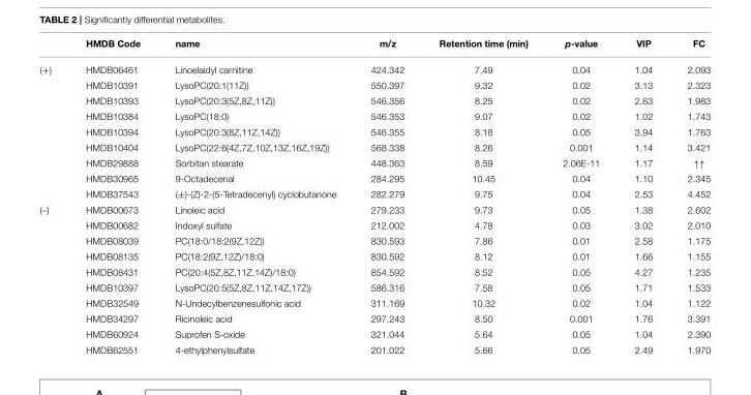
<table><thead><tr><td></td><td>HMDB Code</td><td>name</td><td>m/z</td><td>Retention time (min)</td><td>p-value</td><td>VIP</td><td>FC</td></tr></thead><tbody><tr><td rowspan="9">(+)</td><td>HMDB06461</td><td>Linoelaidyl carnitine</td><td>424.342</td><td>7.49</td><td>0.04</td><td>1.04</td><td>2.093</td></tr><tr><td>HMDB10391</td><td>LysoPC(20:1(11Z))</td><td>550.397</td><td>9.32</td><td>0.02</td><td>3.13</td><td>2.323</td></tr><tr><td>HMDB10393</td><td>LysoPC(20:3(5Z,8Z,11Z))</td><td>546.356</td><td>8.25</td><td>0.02</td><td>2.63</td><td>1.983</td></tr><tr><td>HMDB10384</td><td>LysoPC(18:0)</td><td>546.353</td><td>9.07</td><td>0.02</td><td>1.02</td><td>1.743</td></tr><tr><td>HMDB10394</td><td>LysoPC(20:3(8Z,11Z,14Z))</td><td>546.355</td><td>8.18</td><td>0.05</td><td>3.94</td><td>1.763</td></tr><tr><td>HMDB10404</td><td>LysoPC(22:6(4Z,7Z,10Z,13Z,16Z,19Z))</td><td>568.338</td><td>8.26</td><td>0.001</td><td>1.14</td><td>3.421</td></tr><tr><td>HMDB29888</td><td>Sorbitan stearate</td><td>448.363</td><td>8.59</td><td>2.06E-11</td><td>1.17</td><td>↑↑</td></tr><tr><td>HMDB30965</td><td>9-Octadecenal</td><td>284.295</td><td>10.45</td><td>0.04</td><td>1.10</td><td>2.345</td></tr><tr><td>HMDB37543</td><td>(±)-(Z)-2-(5-Tetradecenyl) cyclobutanone</td><td>282.279</td><td>9.75</td><td>0.04</td><td>2.53</td><td>4.452</td></tr><tr><td rowspan="10">(–)</td><td>HMDB00673</td><td>Linoleic acid</td><td>279.233</td><td>9.73</td><td>0.05</td><td>1.38</td><td>2.602</td></tr><tr><td>HMDB00682</td><td>Indoxyl sulfate</td><td>212.002</td><td>4.78</td><td>0.03</td><td>3.02</td><td>2.010</td></tr><tr><td>HMDB08039</td><td>PC(18:0/18:2(9Z,12Z))</td><td>830.593</td><td>7.86</td><td>0.01</td><td>2.58</td><td>1.175</td></tr><tr><td>HMDB08135</td><td>PC(18:2(9Z,12Z)/18:0)</td><td>830.592</td><td>8.12</td><td>0.01</td><td>1.66</td><td>1.155</td></tr><tr><td>HMDB08431</td><td>PC(20:4(5Z,8Z,11Z,14Z)/18:0)</td><td>854.592</td><td>8.52</td><td>0.05</td><td>4.27</td><td>1.235</td></tr><tr><td>HMDB10397</td><td>LysoPC(20:5(5Z,8Z,11Z,14Z,17Z))</td><td>586.316</td><td>7.58</td><td>0.05</td><td>1.71</td><td>1.533</td></tr><tr><td>HMDB32549</td><td>N-Undecylbenzenesulfonic acid</td><td>311.169</td><td>10.32</td><td>0.02</td><td>1.04</td><td>1.122</td></tr><tr><td>HMDB34297</td><td>Ricinoleic acid</td><td>297.243</td><td>8.50</td><td>0.001</td><td>1.76</td><td>3.391</td></tr><tr><td>HMDB60924</td><td>Suprofen S-oxide</td><td>321.044</td><td>5.64</td><td>0.05</td><td>1.04</td><td>2.390</td></tr><tr><td>HMDB62551</td><td>4-ethylphenylsulfate</td><td>201.022</td><td>5.66</td><td>0.05</td><td>2.49</td><td>1.970</td></tr></tbody></table>